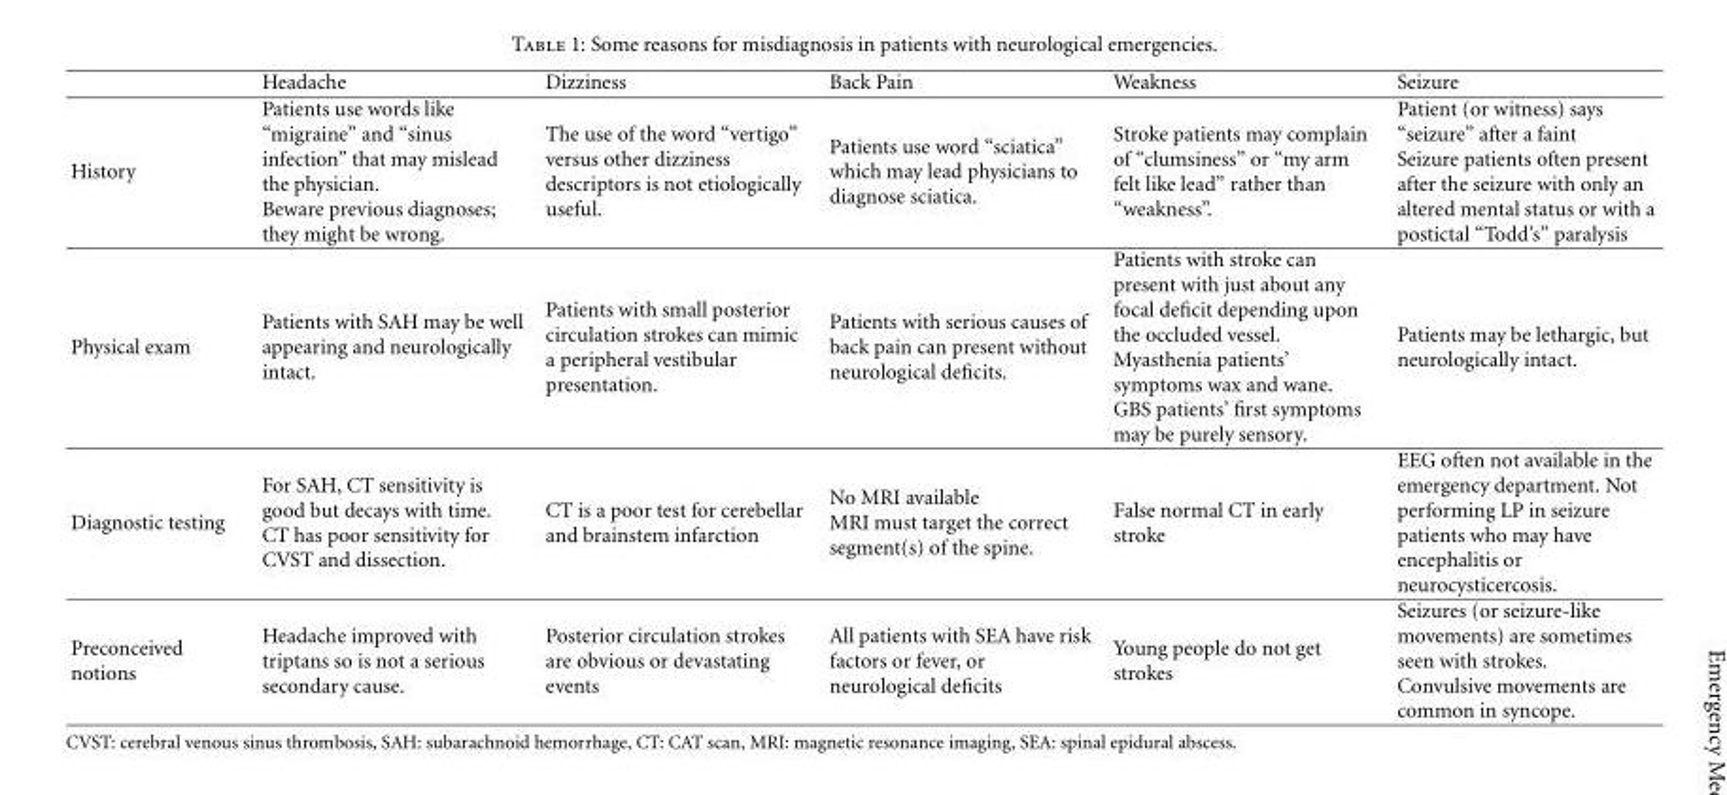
<table><thead><tr><td></td><td>Headache</td><td>Dizziness</td><td>Back Pain</td><td>Weakness</td><td>Seizure</td></tr></thead><tbody><tr><td>History</td><td>Patients use words like “migraine” and “sinus infection” that may mislead the physician. Beware previous diagnoses; they might be wrong.</td><td>The use of the word “vertigo” versus other dizziness descriptors is not etiologically useful.</td><td>Patients use word “sciatica” which may lead physicians to diagnose sciatica.</td><td>Stroke patients may complain of “clumsiness” or “my arm felt like lead” rather than “weakness”.</td><td>Patient (or witness) says “seizure” after a faint Seizure patients often present after the seizure with only an altered mental status or with a postictal “Todd’s” paralysis</td></tr><tr><td>Physical exam</td><td>Patients with SAH may be well appearing and neurologically intact.</td><td>Patients with small posterior circulation strokes can mimic a peripheral vestibular presentation.</td><td>Patients with serious causes of back pain can present without neurological deficits.</td><td>Patients with stroke can present with just about any focal deficit depending upon the occluded vessel. Myasthenia patients’ symptoms wax and wane. GBS patients’ first symptoms may be purely sensory.</td><td>Patients may be lethargic, but neurologically intact.</td></tr><tr><td>Diagnostic testing</td><td>For SAH, CT sensitivity is good but decays with time. CT has poor sensitivity for CVST and dissection.</td><td>CT is a poor test for cerebellar and brainstem infarction</td><td>No MRI available MRI must target the correct segment(s) of the spine.</td><td>False normal CT in early stroke</td><td>EEG often not available in the emergency department. Not performing LP in seizure patients who may have encephalitis or neurocysticercosis.</td></tr><tr><td>Preconceived notions</td><td>Headache improved with triptans so is not a serious secondary cause.</td><td>Posterior circulation strokes are obvious or devastating events</td><td>All patients with SEA have risk factors or fever, or neurological deficits</td><td>Young people do not get strokes</td><td>Seizures (or seizure-like movements) are sometimes seen with strokes. Convulsive movements are common in syncope.</td></tr></tbody></table>